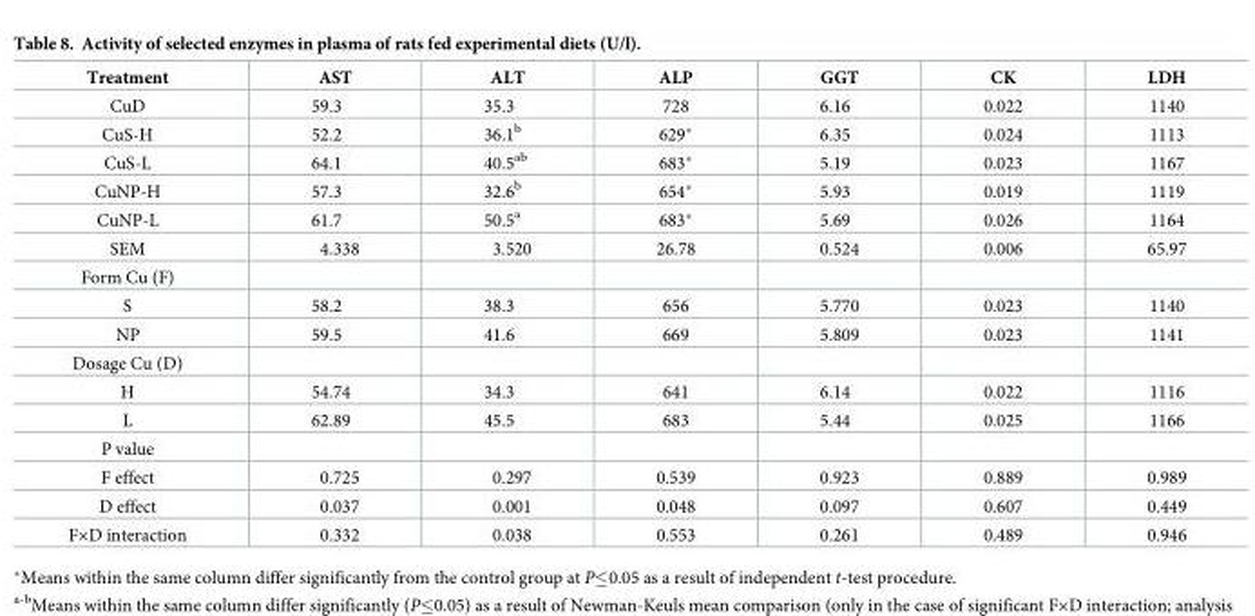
<table><thead><tr><td>Treatment</td><td>AST</td><td>ALT</td><td>ALP</td><td>GGT</td><td>CK</td><td>LDH</td></tr></thead><tbody><tr><td>CuD</td><td>59.3</td><td>35.3</td><td>728</td><td>6.16</td><td>0.022</td><td>1140</td></tr><tr><td>CuS-H</td><td>52.2</td><td>36.1<sup>b</sup></td><td>629*</td><td>6.35</td><td>0.024</td><td>1113</td></tr><tr><td>CuS-L</td><td>64.1</td><td>40.5<sup>ab</sup></td><td>683*</td><td>5.19</td><td>0.023</td><td>1167</td></tr><tr><td>CuNP-H</td><td>57.3</td><td>32.6<sup>b</sup></td><td>654*</td><td>5.93</td><td>0.019</td><td>1119</td></tr><tr><td>CuNP-L</td><td>61.7</td><td>50.5<sup>a</sup></td><td>683*</td><td>5.69</td><td>0.026</td><td>1164</td></tr><tr><td>SEM</td><td>4.338</td><td>3.520</td><td>26.78</td><td>0.524</td><td>0.006</td><td>65.97</td></tr><tr><td colspan="7">Form Cu (F)</td></tr><tr><td>S</td><td>58.2</td><td>38.3</td><td>656</td><td>5.770</td><td>0.023</td><td>1140</td></tr><tr><td>NP</td><td>59.5</td><td>41.6</td><td>669</td><td>5.809</td><td>0.023</td><td>1141</td></tr><tr><td colspan="7">Dosage Cu (D)</td></tr><tr><td>H</td><td>54.74</td><td>34.3</td><td>641</td><td>6.14</td><td>0.022</td><td>1116</td></tr><tr><td>L</td><td>62.89</td><td>45.5</td><td>683</td><td>5.44</td><td>0.025</td><td>1166</td></tr><tr><td colspan="7">P value</td></tr><tr><td>F effect</td><td>0.725</td><td>0.297</td><td>0.539</td><td>0.923</td><td>0.889</td><td>0.989</td></tr><tr><td>D effect</td><td>0.037</td><td>0.001</td><td>0.048</td><td>0.097</td><td>0.607</td><td>0.449</td></tr><tr><td>F×D interaction</td><td>0.332</td><td>0.038</td><td>0.553</td><td>0.261</td><td>0.489</td><td>0.946</td></tr></tbody></table>